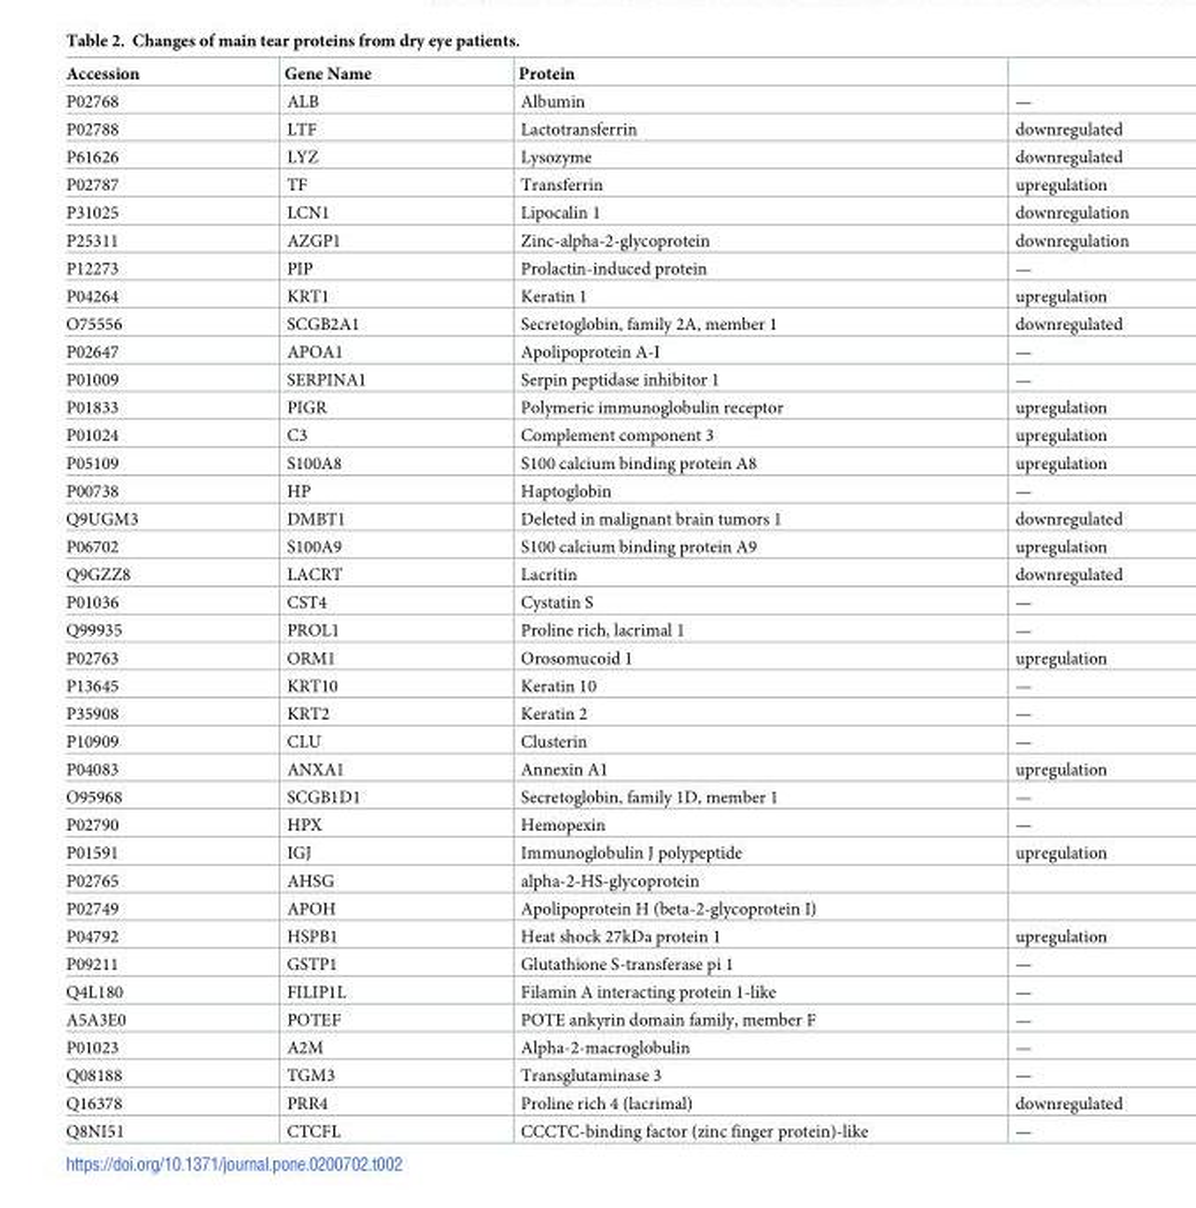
<table><thead><tr><td>Accession</td><td>Gene Name</td><td>Protein</td><td></td></tr></thead><tbody><tr><td>P02768</td><td>ALB</td><td>Albumin</td><td>—</td></tr><tr><td>P02788</td><td>LTF</td><td>Lactotransferrin</td><td>downregulated</td></tr><tr><td>P61626</td><td>LYZ</td><td>Lysozyme</td><td>downregulated</td></tr><tr><td>P02787</td><td>TF</td><td>Transferrin</td><td>upregulation</td></tr><tr><td>P31025</td><td>LCN1</td><td>Lipocalin 1</td><td>downregulation</td></tr><tr><td>P25311</td><td>AZGP1</td><td>Zinc-alpha-2-glycoprotein</td><td>downregulation</td></tr><tr><td>P12273</td><td>PIP</td><td>Prolactin-induced protein</td><td>—</td></tr><tr><td>P04264</td><td>KRT1</td><td>Keratin 1</td><td>upregulation</td></tr><tr><td>O75556</td><td>SCGB2A1</td><td>Secretoglobin, family 2A, member 1</td><td>downregulated</td></tr><tr><td>P02647</td><td>APOA1</td><td>Apolipoprotein A-I</td><td>—</td></tr><tr><td>P01009</td><td>SERPINA1</td><td>Serpin peptidase inhibitor 1</td><td>—</td></tr><tr><td>P01833</td><td>PIGR</td><td>Polymeric immunoglobulin receptor</td><td>upregulation</td></tr><tr><td>P01024</td><td>C3</td><td>Complement component 3</td><td>upregulation</td></tr><tr><td>P05109</td><td>S100A8</td><td>S100 calcium binding protein A8</td><td>upregulation</td></tr><tr><td>P00738</td><td>HP</td><td>Haptoglobin</td><td>—</td></tr><tr><td>Q9UGM3</td><td>DMBT1</td><td>Deleted in malignant brain tumors 1</td><td>downregulated</td></tr><tr><td>P06702</td><td>S100A9</td><td>S100 calcium binding protein A9</td><td>upregulation</td></tr><tr><td>Q9GZZ8</td><td>LACRT</td><td>Lacritin</td><td>downregulated</td></tr><tr><td>P01036</td><td>CST4</td><td>Cystatin S</td><td>—</td></tr><tr><td>Q99935</td><td>PROL1</td><td>Proline rich, lacrimal 1</td><td>—</td></tr><tr><td>P02763</td><td>ORM1</td><td>Orosomucoid 1</td><td>upregulation</td></tr><tr><td>P13645</td><td>KRT10</td><td>Keratin 10</td><td>—</td></tr><tr><td>P35908</td><td>KRT2</td><td>Keratin 2</td><td>—</td></tr><tr><td>P10909</td><td>CLU</td><td>Clusterin</td><td>—</td></tr><tr><td>P04083</td><td>ANXA1</td><td>Annexin A1</td><td>upregulation</td></tr><tr><td>O95968</td><td>SCGB1D1</td><td>Secretoglobin, family 1D, member 1</td><td>—</td></tr><tr><td>P02790</td><td>HPX</td><td>Hemopexin</td><td>—</td></tr><tr><td>P01591</td><td>IGJ</td><td>Immunoglobulin J polypeptide</td><td>upregulation</td></tr><tr><td>P02765</td><td>AHSG</td><td>alpha-2-HS-glycoprotein</td><td></td></tr><tr><td>P02749</td><td>APOH</td><td>Apolipoprotein H (beta-2-glycoprotein I)</td><td></td></tr><tr><td>P04792</td><td>HSPB1</td><td>Heat shock 27kDa protein 1</td><td>upregulation</td></tr><tr><td>P09211</td><td>GSTP1</td><td>Glutathione S-transferase pi 1</td><td>—</td></tr><tr><td>Q4L180</td><td>FILIP1L</td><td>Filamin A interacting protein 1-like</td><td>—</td></tr><tr><td>A5A3E0</td><td>POTEF</td><td>POTE ankyrin domain family, member F</td><td>—</td></tr><tr><td>P01023</td><td>A2M</td><td>Alpha-2-macroglobulin</td><td>—</td></tr><tr><td>Q08188</td><td>TGM3</td><td>Transglutaminase 3</td><td>—</td></tr><tr><td>Q16378</td><td>PRR4</td><td>Proline rich 4 (lacrimal)</td><td>downregulated</td></tr><tr><td>Q8NI51</td><td>CTCFL</td><td>CCCTC-binding factor (zinc finger protein)-like</td><td>—</td></tr></tbody></table>